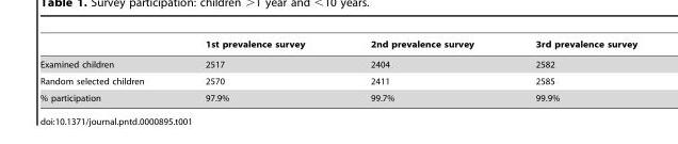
<table><thead><tr><td></td><td>1st prevalence survey</td><td>2nd prevalence survey</td><td>3rd prevalence survey</td></tr></thead><tbody><tr><td>Examined children</td><td>2517</td><td>2404</td><td>2582</td></tr><tr><td>Random selected children</td><td>2570</td><td>2411</td><td>2585</td></tr><tr><td>% participation</td><td>97.9%</td><td>99.7%</td><td>99.9%</td></tr></tbody></table>